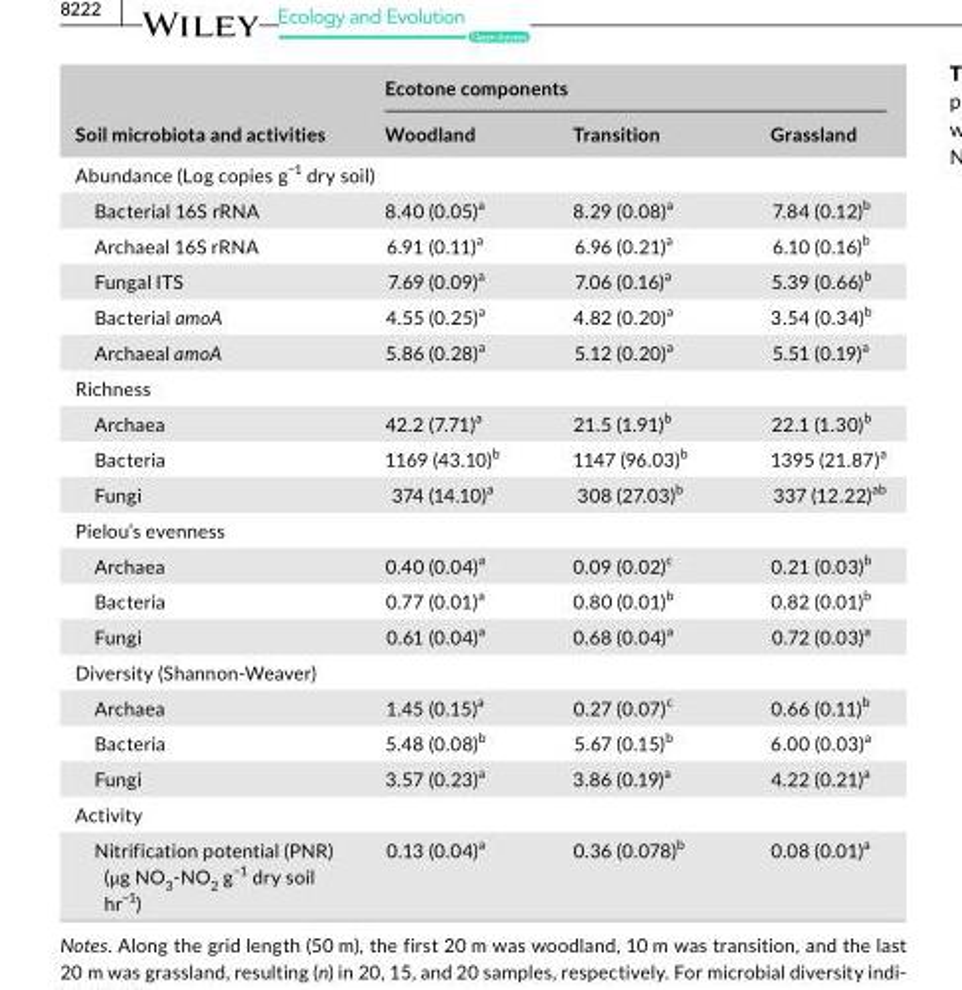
<table><thead><tr><td rowspan="2">Soil microbiota and activities</td><td colspan="3">Ecotone components</td></tr><tr><td>Woodland</td><td>Transition</td><td>Grassland</td></tr></thead><tbody><tr><td colspan="4">Abundance (Log copies g<sup>−1</sup> dry soil)</td></tr><tr><td>Bacterial 16S rRNA</td><td>8.40 (0.05)<sup>a</sup></td><td>8.29 (0.08)<sup>a</sup></td><td>7.84 (0.12)<sup>b</sup></td></tr><tr><td>Archaeal 16S rRNA</td><td>6.91 (0.11)<sup>a</sup></td><td>6.96 (0.21)<sup>a</sup></td><td>6.10 (0.16)<sup>b</sup></td></tr><tr><td>Fungal ITS</td><td>7.69 (0.09)<sup>a</sup></td><td>7.06 (0.16)<sup>a</sup></td><td>5.39 (0.66)<sup>b</sup></td></tr><tr><td>Bacterial amoA</td><td>4.55 (0.25)<sup>a</sup></td><td>4.82 (0.20)<sup>a</sup></td><td>3.54 (0.34)<sup>b</sup></td></tr><tr><td>Archaeal amoA</td><td>5.86 (0.28)<sup>a</sup></td><td>5.12 (0.20)<sup>a</sup></td><td>5.51 (0.19)<sup>a</sup></td></tr><tr><td colspan="4">Richness</td></tr><tr><td>Archaea</td><td>42.2 (7.71)<sup>a</sup></td><td>21.5 (1.91)<sup>b</sup></td><td>22.1 (1.30)<sup>b</sup></td></tr><tr><td>Bacteria</td><td>1169 (43.10)<sup>b</sup></td><td>1147 (96.03)<sup>b</sup></td><td>1395 (21.87)<sup>a</sup></td></tr><tr><td>Fungi</td><td>374 (14.10)<sup>a</sup></td><td>308 (27.03)<sup>b</sup></td><td>337 (12.22)<sup>ab</sup></td></tr><tr><td colspan="4">Pielou’s evenness</td></tr><tr><td>Archaea</td><td>0.40 (0.04)<sup>a</sup></td><td>0.09 (0.02)<sup>c</sup></td><td>0.21 (0.03)<sup>b</sup></td></tr><tr><td>Bacteria</td><td>0.77 (0.01)<sup>a</sup></td><td>0.80 (0.01)<sup>b</sup></td><td>0.82 (0.01)<sup>b</sup></td></tr><tr><td>Fungi</td><td>0.61 (0.04)<sup>a</sup></td><td>0.68 (0.04)<sup>a</sup></td><td>0.72 (0.03)<sup>a</sup></td></tr><tr><td colspan="4">Diversity (Shannon- Weaver)</td></tr><tr><td>Archaea</td><td>1.45 (0.15)<sup>a</sup></td><td>0.27 (0.07)<sup>c</sup></td><td>0.66 (0.11)<sup>b</sup></td></tr><tr><td>Bacteria</td><td>5.48 (0.08)<sup>b</sup></td><td>5.67 (0.15)<sup>b</sup></td><td>6.00 (0.03)<sup>a</sup></td></tr><tr><td>Fungi</td><td>3.57 (0.23)<sup>a</sup></td><td>3.86 (0.19)<sup>a</sup></td><td>4.22 (0.21)<sup>a</sup></td></tr><tr><td colspan="4">Activity</td></tr><tr><td>Nitrification potential (PNR) (μg NO<sub>3</sub>- NO<sub>2</sub> g<sup>−1</sup> dry soil hr<sup>−1</sup>)</td><td>0.13 (0.04)<sup>a</sup></td><td>0.36 (0.078)<sup>b</sup></td><td>0.08 (0.01)<sup>a</sup></td></tr></tbody></table>